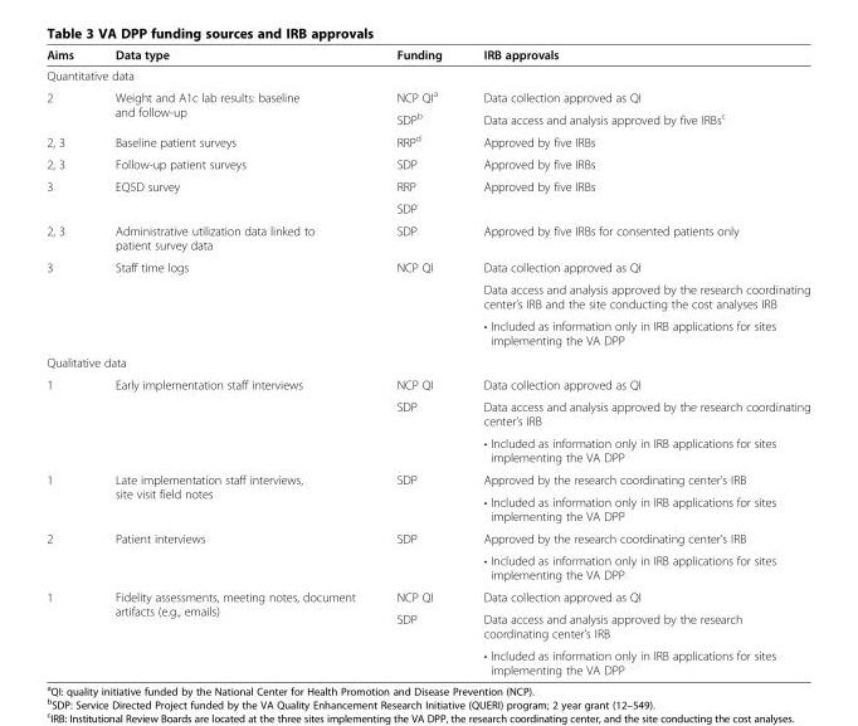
<table><thead><tr><td>Aims</td><td>Data type</td><td>Funding</td><td>IRB approvals</td></tr></thead><tbody><tr><td colspan="4">Quantitative data</td></tr><tr><td rowspan="2">2</td><td rowspan="2">Weight and A1c lab results: baseline and follow-up</td><td>NCP QI<sup>a</sup></td><td>Data collection approved as QI</td></tr><tr><td>SDP<sup>b</sup></td><td>Data access and analysis approved by five IRBs<sup>c</sup></td></tr><tr><td>2, 3</td><td>Baseline patient surveys</td><td>RRP<sup>d</sup></td><td>Approved by five IRBs</td></tr><tr><td>2, 3</td><td>Follow-up patient surveys</td><td>SDP</td><td>Approved by five IRBs</td></tr><tr><td rowspan="2">3</td><td rowspan="2">EQ5D survey</td><td>RRP</td><td rowspan="2">Approved by five IRBs</td></tr><tr><td>SDP</td></tr><tr><td>2, 3</td><td>Administrative utilization data linked to patient survey data</td><td>SDP</td><td>Approved by five IRBs for consented patients only</td></tr><tr><td rowspan="3">3</td><td rowspan="3">Staff time logs</td><td rowspan="3">NCP QI</td><td>Data collection approved as QI</td></tr><tr><td>Data access and analysis approved by the research coordinating center’s IRB and the site conducting the cost analyses IRB</td></tr><tr><td>• Included as information only in IRB applications for sites implementing the VA DPP</td></tr><tr><td colspan="4">Qualitative data</td></tr><tr><td rowspan="3">1</td><td rowspan="3">Early implementation staff interviews</td><td>NCP QI</td><td>Data collection approved as QI</td></tr><tr><td rowspan="2">SDP</td><td>Data access and analysis approved by the research coordinating center’s IRB</td></tr><tr><td>• Included as information only in IRB applications for sites implementing the VA DPP</td></tr><tr><td rowspan="2">1</td><td rowspan="2">Late implementation staff interviews, site visit field notes</td><td rowspan="2">SDP</td><td>Approved by the research coordinating center’s IRB</td></tr><tr><td>• Included as information only in IRB applications for sites implementing the VA DPP</td></tr><tr><td rowspan="2">2</td><td rowspan="2">Patient interviews</td><td rowspan="2">SDP</td><td>Approved by the research coordinating center’s IRB</td></tr><tr><td>• Included as information only in IRB applications for sites implementing the VA DPP</td></tr><tr><td rowspan="3">1</td><td rowspan="3">Fidelity assessments, meeting notes, document artifacts (e.g., emails)</td><td>NCP QI</td><td>Data collection approved as QI</td></tr><tr><td rowspan="2">SDP</td><td>Data access and analysis approved by the research coordinating center’s IRB</td></tr><tr><td>• Included as information only in IRB applications for sites implementing the VA DPP</td></tr></tbody></table>